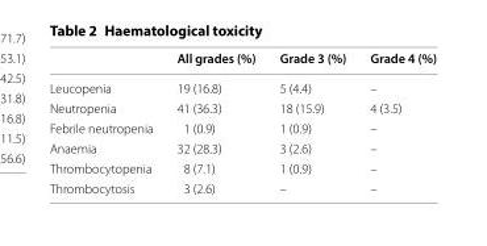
<table><thead><tr><td></td><td>All grades (%)</td><td>Grade 3 (%)</td><td>Grade 4 (%)</td></tr></thead><tbody><tr><td>Leucopenia</td><td>19 (16.8)</td><td>5 (4.4)</td><td>–</td></tr><tr><td>Neutropenia</td><td>41 (36.3)</td><td>18 (15.9)</td><td>4 (3.5)</td></tr><tr><td>Febrile neutropenia</td><td>1 (0.9)</td><td>1 (0.9)</td><td>–</td></tr><tr><td>Anaemia</td><td>32 (28.3)</td><td>3 (2.6)</td><td>–</td></tr><tr><td>Thrombocytopenia</td><td>8 (7.1)</td><td>1 (0.9)</td><td>–</td></tr><tr><td>Thrombocytosis</td><td>3 (2.6)</td><td>–</td><td>–</td></tr></tbody></table>